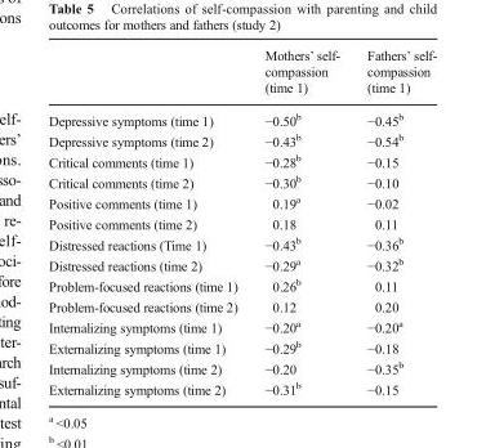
<table><thead><tr><td></td><td>Mothers’ self- compassion (time 1)</td><td>Fathers’ self- compassion (time 1)</td></tr></thead><tbody><tr><td>Depressive symptoms (time 1)</td><td>−0.50<sup>b</sup></td><td>−0.45<sup>b</sup></td></tr><tr><td>Depressive symptoms (time 2)</td><td>−0.43<sup>b</sup></td><td>−0.54<sup>b</sup></td></tr><tr><td>Critical comments (time 1)</td><td>−0.28<sup>b</sup></td><td>−0.15</td></tr><tr><td>Critical comments (time 2)</td><td>−0.30<sup>b</sup></td><td>−0.10</td></tr><tr><td>Positive comments (time 1)</td><td>0.19<sup>a</sup></td><td>−0.02</td></tr><tr><td>Positive comments (time 2)</td><td>0.18</td><td>0.11</td></tr><tr><td>Distressed reactions (Time 1)</td><td>−0.43<sup>b</sup></td><td>−0.36<sup>b</sup></td></tr><tr><td>Distressed reactions (time 2)</td><td>−0.29<sup>a</sup></td><td>−0.32<sup>b</sup></td></tr><tr><td>Problem-focused reactions (time 1)</td><td>0.26<sup>b</sup></td><td>0.11</td></tr><tr><td>Problem-focused reactions (time 2)</td><td>0.12</td><td>0.20</td></tr><tr><td>Internalizing symptoms (time 1)</td><td>−0.20<sup>a</sup></td><td>−0.20<sup>a</sup></td></tr><tr><td>Externalizing symptoms (time 1)</td><td>−0.29<sup>b</sup></td><td>−0.18</td></tr><tr><td>Internalizing symptoms (time 2)</td><td>−0.20</td><td>−0.35<sup>b</sup></td></tr><tr><td>Externalizing symptoms (time 2)</td><td>−0.31<sup>b</sup></td><td>−0.15</td></tr></tbody></table>